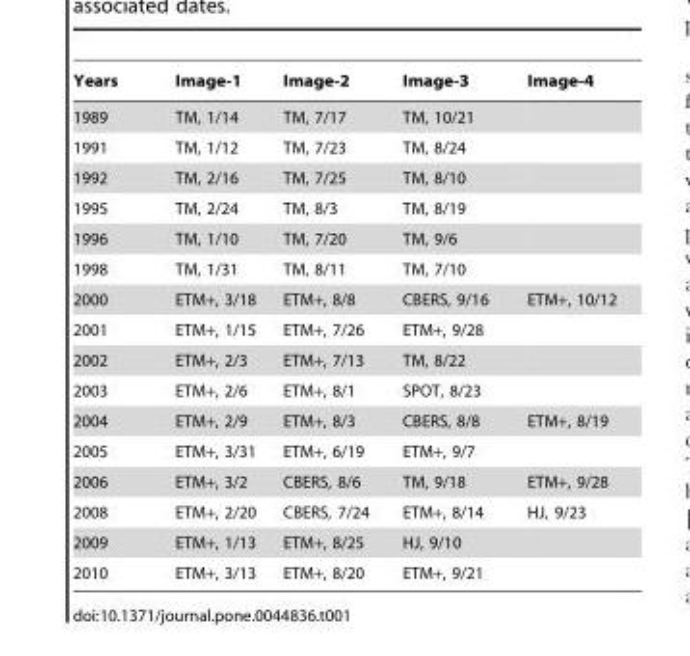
<table><thead><tr><td>Years</td><td>Image-1</td><td>Image-2</td><td>Image-3</td><td>Image-4</td></tr></thead><tbody><tr><td>1989</td><td>TM, 1/14</td><td>TM, 7/17</td><td>TM, 10/21</td><td></td></tr><tr><td>1991</td><td>TM, 1/12</td><td>TM, 7/23</td><td>TM, 8/24</td><td></td></tr><tr><td>1992</td><td>TM, 2/16</td><td>TM, 7/25</td><td>TM, 8/10</td><td></td></tr><tr><td>1995</td><td>TM, 2/24</td><td>TM, 8/3</td><td>TM, 8/19</td><td></td></tr><tr><td>1996</td><td>TM, 1/10</td><td>TM, 7/20</td><td>TM, 9/6</td><td></td></tr><tr><td>1998</td><td>TM, 1/31</td><td>TM, 8/11</td><td>TM, 7/10</td><td></td></tr><tr><td>2000</td><td>ETM+, 3/18</td><td>ETM+, 8/8</td><td>CBERS, 9/16</td><td>ETM+, 10/12</td></tr><tr><td>2001</td><td>ETM+, 1/15</td><td>ETM+, 7/26</td><td>ETM+, 9/28</td><td></td></tr><tr><td>2002</td><td>ETM+, 2/3</td><td>ETM+, 7/13</td><td>TM, 8/22</td><td></td></tr><tr><td>2003</td><td>ETM+, 2/6</td><td>ETM+, 8/1</td><td>SPOT, 8/23</td><td></td></tr><tr><td>2004</td><td>ETM+, 2/9</td><td>ETM+, 8/3</td><td>CBERS, 8/8</td><td>ETM+, 8/19</td></tr><tr><td>2005</td><td>ETM+, 3/31</td><td>ETM+, 6/19</td><td>ETM+, 9/7</td><td></td></tr><tr><td>2006</td><td>ETM+, 3/2</td><td>CBERS, 8/6</td><td>TM, 9/18</td><td>ETM+, 9/28</td></tr><tr><td>2008</td><td>ETM+, 2/20</td><td>CBERS, 7/24</td><td>ETM+, 8/14</td><td>HJ, 9/23</td></tr><tr><td>2009</td><td>ETM+, 1/13</td><td>ETM+, 8/25</td><td>HJ, 9/10</td><td></td></tr><tr><td>2010</td><td>ETM+, 3/13</td><td>ETM+, 8/20</td><td>ETM+, 9/21</td><td></td></tr></tbody></table>